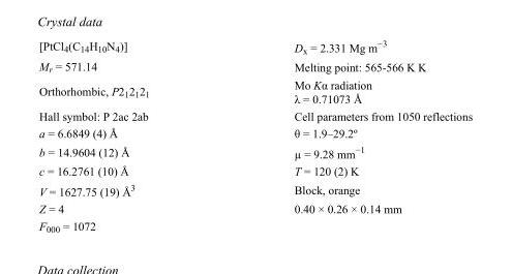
<table><tbody><tr><td>[PtCl<sub>4</sub>(C<sub>14</sub>H<sub>10</sub>N<sub>4</sub>)]</td><td>D<sub>x</sub> = 2.331 Mg m<sup>−3</sup></td></tr><tr><td>M<sub>r</sub> = 571.14</td><td>Melting point: 565-566 K K</td></tr><tr><td>Orthorhombic, P2<sub>1</sub>2<sub>1</sub>2<sub>1</sub></td><td>Mo Kα radiation λ = 0.71073 Å</td></tr><tr><td>Hall symbol: P 2ac 2ab</td><td>Cell parameters from 1050 reflections</td></tr><tr><td>a = 6.6849 (4) Å</td><td>θ = 1.9–29.2º</td></tr><tr><td>b = 14.9604 (12) Å</td><td>µ = 9.28 mm<sup>−1</sup></td></tr><tr><td>c = 16.2761 (10) Å</td><td>T = 120 (2) K</td></tr><tr><td>V = 1627.75 (19) Å<sup>3</sup></td><td>Block, orange</td></tr><tr><td>Z = 4</td><td>0.40 × 0.26 × 0.14 mm</td></tr><tr><td>F<sub>000</sub> = 1072</td><td></td></tr></tbody></table>